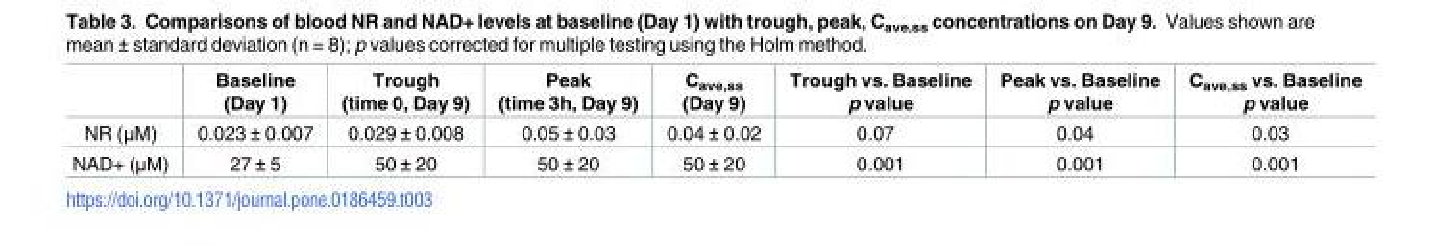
<table><thead><tr><td></td><td>Baseline (Day 1)</td><td>Trough (time 0, Day 9)</td><td>Peak (time 3h, Day 9)</td><td>C<sub>ave,ss</sub> (Day 9)</td><td>Trough vs. Baseline p value</td><td>Peak vs. Baseline p value</td><td>C<sub>ave,ss</sub> vs. Baseline p value</td></tr></thead><tbody><tr><td>NR (μM)</td><td>0.023 ± 0.007</td><td>0.029 ± 0.008</td><td>0.05 ± 0.03</td><td>0.04 ± 0.02</td><td>0.07</td><td>0.04</td><td>0.03</td></tr><tr><td>NAD+ (μM)</td><td>27 ± 5</td><td>50 ± 20</td><td>50 ± 20</td><td>50 ± 20</td><td>0.001</td><td>0.001</td><td>0.001</td></tr></tbody></table>